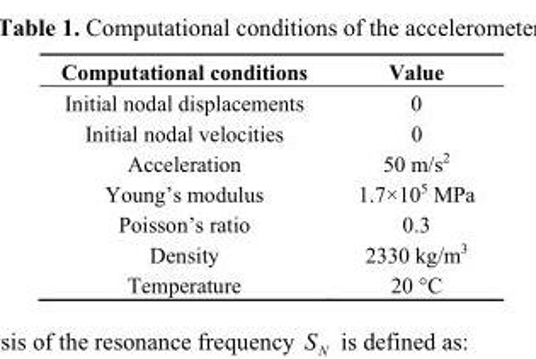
<table><thead><tr><td>Computational conditions</td><td>Value</td></tr></thead><tbody><tr><td>Initial nodal displacements</td><td>0</td></tr><tr><td>Initial nodal velocities</td><td>0</td></tr><tr><td>Acceleration</td><td>50 m/s<sup>2</sup></td></tr><tr><td>Young’s modulus</td><td>1.7×10<sup>5</sup> MPa</td></tr><tr><td>Poisson’s ratio</td><td>0.3</td></tr><tr><td>Density</td><td>2330 kg/m<sup>3</sup></td></tr><tr><td>Temperature</td><td>20 °C</td></tr></tbody></table>